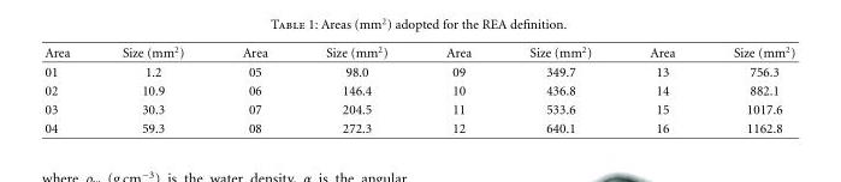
<table><thead><tr><td>Area</td><td>Size (mm<sup>2</sup>)</td><td>Area</td><td>Size (mm<sup>2</sup>)</td><td>Area</td><td>Size (mm<sup>2</sup>)</td><td>Area</td><td>Size (mm<sup>2</sup>)</td></tr></thead><tbody><tr><td>01</td><td>1.2</td><td>05</td><td>98.0</td><td>09</td><td>349.7</td><td>13</td><td>756.3</td></tr><tr><td>02</td><td>10.9</td><td>06</td><td>146.4</td><td>10</td><td>436.8</td><td>14</td><td>882.1</td></tr><tr><td>03</td><td>30.3</td><td>07</td><td>204.5</td><td>11</td><td>533.6</td><td>15</td><td>1017.6</td></tr><tr><td>04</td><td>59.3</td><td>08</td><td>272.3</td><td>12</td><td>640.1</td><td>16</td><td>1162.8</td></tr></tbody></table>